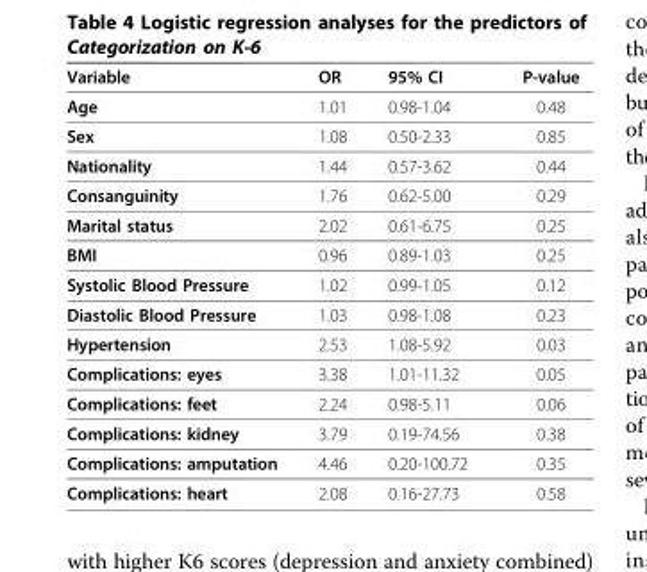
<table><thead><tr><td>Variable</td><td>OR</td><td>95% CI</td><td>P-value</td></tr></thead><tbody><tr><td>Age</td><td>1.01</td><td>0.98-1.04</td><td>0.48</td></tr><tr><td>Sex</td><td>1.08</td><td>0.50-2.33</td><td>0.85</td></tr><tr><td>Nationality</td><td>1.44</td><td>0.57-3.62</td><td>0.44</td></tr><tr><td>Consanguinity</td><td>1.76</td><td>0.62-5.00</td><td>0.29</td></tr><tr><td>Marital status</td><td>2.02</td><td>0.61-6.75</td><td>0.25</td></tr><tr><td>BMI</td><td>0.96</td><td>0.89-1.03</td><td>0.25</td></tr><tr><td>Systolic Blood Pressure</td><td>1.02</td><td>0.99-1.05</td><td>0.12</td></tr><tr><td>Diastolic Blood Pressure</td><td>1.03</td><td>0.98-1.08</td><td>0.23</td></tr><tr><td>Hypertension</td><td>2.53</td><td>1.08-5.92</td><td>0.03</td></tr><tr><td>Complications: eyes</td><td>3.38</td><td>1.01-11.32</td><td>0.05</td></tr><tr><td>Complications: feet</td><td>2.24</td><td>0.98-5.11</td><td>0.06</td></tr><tr><td>Complications: kidney</td><td>3.79</td><td>0.19-74.56</td><td>0.38</td></tr><tr><td>Complications: amputation</td><td>4.46</td><td>0.20-100.72</td><td>0.35</td></tr><tr><td>Complications: heart</td><td>2.08</td><td>0.16-27.73</td><td>0.58</td></tr></tbody></table>